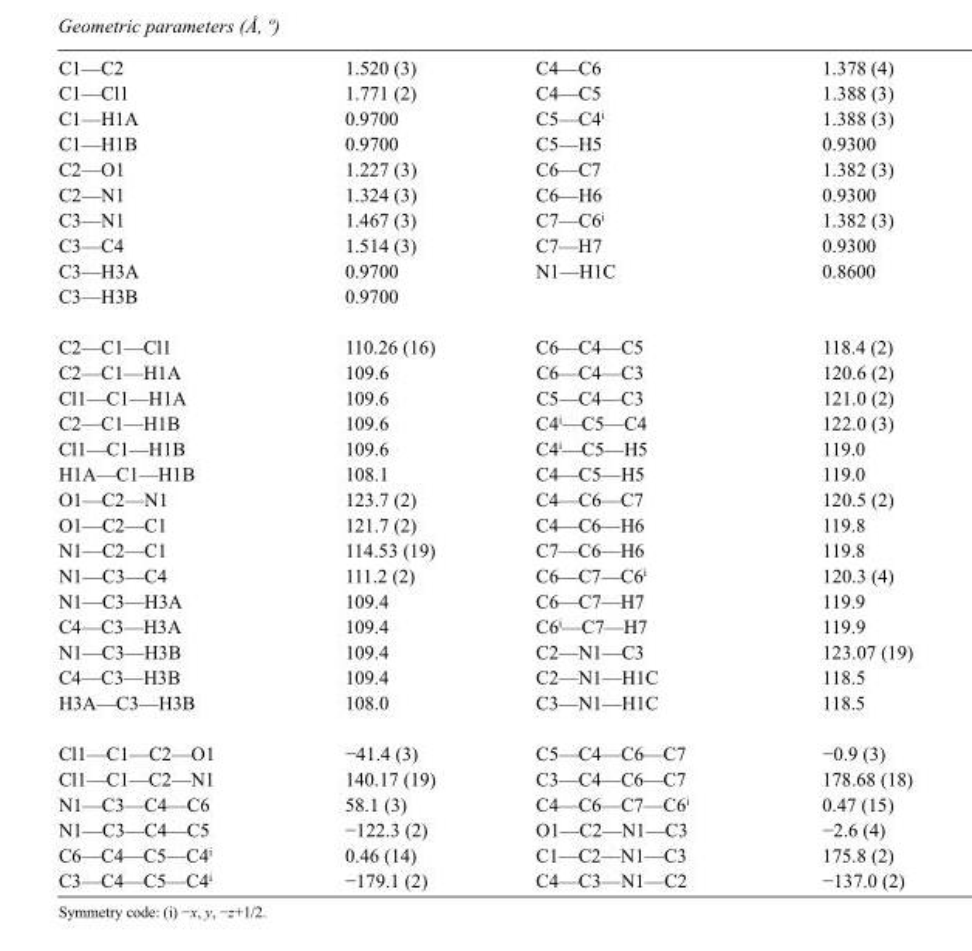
<table><tbody><tr><td>C1—C2</td><td>1.520 (3)</td><td>C4—C6</td><td>1.378 (4)</td></tr><tr><td>C1—Cl1</td><td>1.771 (2)</td><td>C4—C5</td><td>1.388 (3)</td></tr><tr><td>C1—H1A</td><td>0.9700</td><td>C5—C4<sup>i</sup></td><td>1.388 (3)</td></tr><tr><td>C1—H1B</td><td>0.9700</td><td>C5—H5</td><td>0.9300</td></tr><tr><td>C2—O1</td><td>1.227 (3)</td><td>C6—C7</td><td>1.382 (3)</td></tr><tr><td>C2—N1</td><td>1.324 (3)</td><td>C6—H6</td><td>0.9300</td></tr><tr><td>C3—N1</td><td>1.467 (3)</td><td>C7—C6<sup>i</sup></td><td>1.382 (3)</td></tr><tr><td>C3—C4</td><td>1.514 (3)</td><td>C7—H7</td><td>0.9300</td></tr><tr><td>C3—H3A</td><td>0.9700</td><td>N1—H1C</td><td>0.8600</td></tr><tr><td>C3—H3B</td><td>0.9700</td><td></td><td></td></tr><tr><td>C2—C1—Cl1</td><td>110.26 (16)</td><td>C6—C4—C5</td><td>118.4 (2)</td></tr><tr><td>C2—C1—H1A</td><td>109.6</td><td>C6—C4—C3</td><td>120.6 (2)</td></tr><tr><td>Cl1—C1—H1A</td><td>109.6</td><td>C5—C4—C3</td><td>121.0 (2)</td></tr><tr><td>C2—C1—H1B</td><td>109.6</td><td>C4<sup>i</sup>—C5—C4</td><td>122.0 (3)</td></tr><tr><td>Cl1—C1—H1B</td><td>109.6</td><td>C4<sup>i</sup>—C5—H5</td><td>119.0</td></tr><tr><td>H1A—C1—H1B</td><td>108.1</td><td>C4—C5—H5</td><td>119.0</td></tr><tr><td>O1—C2—N1</td><td>123.7 (2)</td><td>C4—C6—C7</td><td>120.5 (2)</td></tr><tr><td>O1—C2—C1</td><td>121.7 (2)</td><td>C4—C6—H6</td><td>119.8</td></tr><tr><td>N1—C2—C1</td><td>114.53 (19)</td><td>C7—C6—H6</td><td>119.8</td></tr><tr><td>N1—C3—C4</td><td>111.2 (2)</td><td>C6—C7—C6<sup>i</sup></td><td>120.3 (4)</td></tr><tr><td>N1—C3—H3A</td><td>109.4</td><td>C6—C7—H7</td><td>119.9</td></tr><tr><td>C4—C3—H3A</td><td>109.4</td><td>C6<sup>i</sup>—C7—H7</td><td>119.9</td></tr><tr><td>N1—C3—H3B</td><td>109.4</td><td>C2—N1—C3</td><td>123.07 (19)</td></tr><tr><td>C4—C3—H3B</td><td>109.4</td><td>C2—N1—H1C</td><td>118.5</td></tr><tr><td>H3A—C3—H3B</td><td>108.0</td><td>C3—N1—H1C</td><td>118.5</td></tr><tr><td>Cl1—C1—C2—O1</td><td>−41.4 (3)</td><td>C5—C4—C6—C7</td><td>−0.9 (3)</td></tr><tr><td>Cl1—C1—C2—N1</td><td>140.17 (19)</td><td>C3—C4—C6—C7</td><td>178.68 (18)</td></tr><tr><td>N1—C3—C4—C6</td><td>58.1 (3)</td><td>C4—C6—C7—C6<sup>i</sup></td><td>0.47 (15)</td></tr><tr><td>N1—C3—C4—C5</td><td>−122.3 (2)</td><td>O1—C2—N1—C3</td><td>−2.6 (4)</td></tr><tr><td>C6—C4—C5—C4<sup>i</sup></td><td>0.46 (14)</td><td>C1—C2—N1—C3</td><td>175.8 (2)</td></tr><tr><td>C3—C4—C5—C4<sup>i</sup></td><td>−179.1 (2)</td><td>C4—C3—N1—C2</td><td>−137.0 (2)</td></tr></tbody></table>